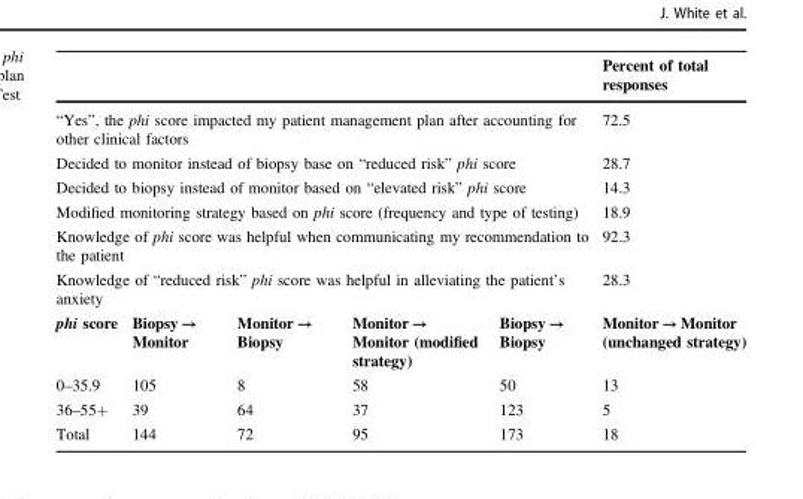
<table><thead><tr><td></td><td></td><td></td><td></td><td></td><td>Percent of total responses</td></tr></thead><tbody><tr><td colspan="5">“Yes”, the phi score impacted my patient management plan after accounting for other clinical factors</td><td>72.5</td></tr><tr><td colspan="5">Decided to monitor instead of biopsy base on “reduced risk” phi score</td><td>28.7</td></tr><tr><td colspan="5">Decided to biopsy instead of monitor based on “elevated risk” phi score</td><td>14.3</td></tr><tr><td colspan="5">Modified monitoring strategy based on phi score (frequency and type of testing)</td><td>18.9</td></tr><tr><td colspan="5">Knowledge of phi score was helpful when communicating my recommendation to the patient</td><td>92.3</td></tr><tr><td colspan="5">Knowledge of “reduced risk” phi score was helpful in alleviating the patient’s anxiety</td><td>28.3</td></tr><tr><td>phi score</td><td>Biopsy → Monitor</td><td>Monitor → Biopsy</td><td>Monitor → Monitor (modified strategy)</td><td>Biopsy → Biopsy</td><td>Monitor → Monitor (unchanged strategy)</td></tr><tr><td>0–35.9</td><td>105</td><td>8</td><td>58</td><td>50</td><td>13</td></tr><tr><td>36–55+</td><td>39</td><td>64</td><td>37</td><td>123</td><td>5</td></tr><tr><td>Total</td><td>144</td><td>72</td><td>95</td><td>173</td><td>18</td></tr></tbody></table>